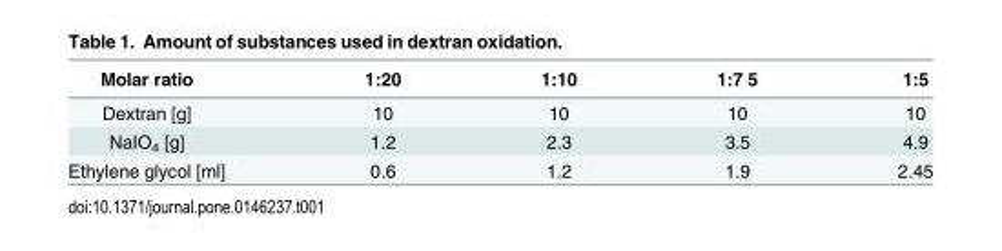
<table><thead><tr><td>Molar ratio</td><td>1:20</td><td>1:10</td><td>1:7 5</td><td>1:5</td></tr></thead><tbody><tr><td>Dextran [g]</td><td>10</td><td>10</td><td>10</td><td>10</td></tr><tr><td>NaIO<sub>4</sub> [g]</td><td>1.2</td><td>2.3</td><td>3.5</td><td>4.9</td></tr><tr><td>Ethylene glycol [ml]</td><td>0.6</td><td>1.2</td><td>1.9</td><td>2.45</td></tr></tbody></table>